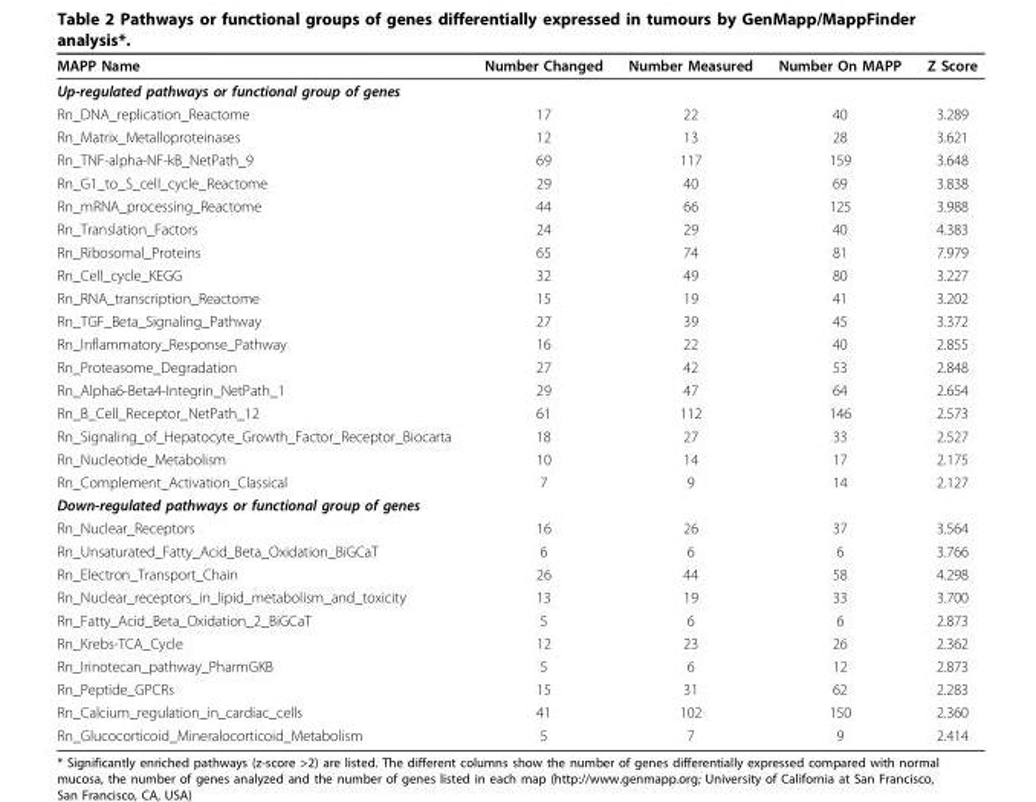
<table><thead><tr><td>MAPP Name</td><td>Number Changed</td><td>Number Measured</td><td>Number On MAPP</td><td>Z Score</td></tr></thead><tbody><tr><td colspan="5">Up-regulated pathways or functional group of genes</td></tr><tr><td>Rn_DNA_replication_Reactome</td><td>17</td><td>22</td><td>40</td><td>3.289</td></tr><tr><td>Rn_Matrix_Metalloproteinases</td><td>12</td><td>13</td><td>28</td><td>3.621</td></tr><tr><td>Rn_TNF-alpha-NF-kB_NetPath_9</td><td>69</td><td>117</td><td>159</td><td>3.648</td></tr><tr><td>Rn_G1_to_S_cell_cycle_Reactome</td><td>29</td><td>40</td><td>69</td><td>3.838</td></tr><tr><td>Rn_mRNA_processing_Reactome</td><td>44</td><td>66</td><td>125</td><td>3.988</td></tr><tr><td>Rn_Translation_Factors</td><td>24</td><td>29</td><td>40</td><td>4.383</td></tr><tr><td>Rn_Ribosomal_Proteins</td><td>65</td><td>74</td><td>81</td><td>7.979</td></tr><tr><td>Rn_Cell_cycle_KEGG</td><td>32</td><td>49</td><td>80</td><td>3.227</td></tr><tr><td>Rn_RNA_transcription_Reactome</td><td>15</td><td>19</td><td>41</td><td>3.202</td></tr><tr><td>Rn_TGF_Beta_Signaling_Pathway</td><td>27</td><td>39</td><td>45</td><td>3.372</td></tr><tr><td>Rn_Inflammatory_Response_Pathway</td><td>16</td><td>22</td><td>40</td><td>2.855</td></tr><tr><td>Rn_Proteasome_Degradation</td><td>27</td><td>42</td><td>53</td><td>2.848</td></tr><tr><td>Rn_Alpha6-Beta4-Integrin_NetPath_1</td><td>29</td><td>47</td><td>64</td><td>2.654</td></tr><tr><td>Rn_B_Cell_Receptor_NetPath_12</td><td>61</td><td>112</td><td>146</td><td>2.573</td></tr><tr><td>Rn_Signaling_of_Hepatocyte_Growth_Factor_Receptor_Biocarta</td><td>18</td><td>27</td><td>33</td><td>2.527</td></tr><tr><td>Rn_Nucleotide_Metabolism</td><td>10</td><td>14</td><td>17</td><td>2.175</td></tr><tr><td>Rn_Complement_Activation_Classical</td><td>7</td><td>9</td><td>14</td><td>2.127</td></tr><tr><td colspan="5">Down-regulated pathways or functional group of genes</td></tr><tr><td>Rn_Nuclear_Receptors</td><td>16</td><td>26</td><td>37</td><td>3.564</td></tr><tr><td>Rn_Unsaturated_Fatty_Acid_Beta_Oxidation_BiGCaT</td><td>6</td><td>6</td><td>6</td><td>3.766</td></tr><tr><td>Rn_Electron_Transport_Chain</td><td>26</td><td>44</td><td>58</td><td>4.298</td></tr><tr><td>Rn_Nuclear_receptors_in_lipid_metabolism_and_toxicity</td><td>13</td><td>19</td><td>33</td><td>3.700</td></tr><tr><td>Rn_Fatty_Acid_Beta_Oxidation_2_BiGCaT</td><td>5</td><td>6</td><td>6</td><td>2.873</td></tr><tr><td>Rn_Krebs-TCA_Cycle</td><td>12</td><td>23</td><td>26</td><td>2.362</td></tr><tr><td>Rn_Irinotecan_pathway_PharmGKB</td><td>5</td><td>6</td><td>12</td><td>2.873</td></tr><tr><td>Rn_Peptide_GPCRs</td><td>15</td><td>31</td><td>62</td><td>2.283</td></tr><tr><td>Rn_Calcium_regulation_in_cardiac_cells</td><td>41</td><td>102</td><td>150</td><td>2.360</td></tr><tr><td>Rn_Glucocorticoid_Mineralocorticoid_Metabolism</td><td>5</td><td>7</td><td>9</td><td>2.414</td></tr></tbody></table>